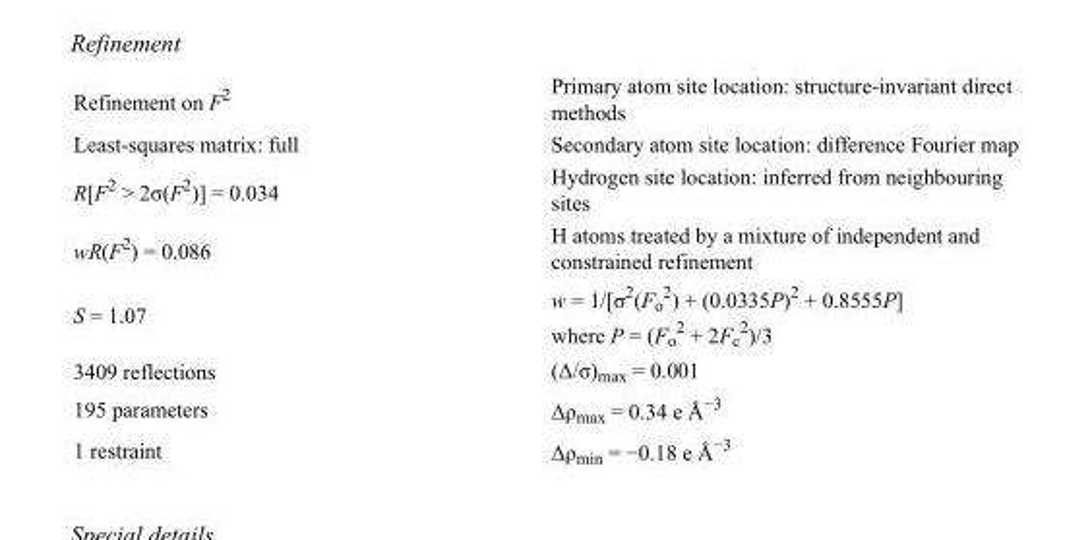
<table><tbody><tr><td>Refinement on F<sup>2</sup></td><td>Primary atom site location: structure-invariant direct methods</td></tr><tr><td>Least-squares matrix: full</td><td>Secondary atom site location: difference Fourier map</td></tr><tr><td>R[F<sup>2</sup> &gt; 2σ(F<sup>2</sup>)] = 0.034</td><td>Hydrogen site location: inferred from neighbouring sites</td></tr><tr><td>wR(F<sup>2</sup>) = 0.086</td><td>H atoms treated by a mixture of independent and constrained refinement</td></tr><tr><td>S = 1.07</td><td>w = 1/[σ<sup>2</sup>(F<sub>o</sub> <sup>2</sup>) + (0.0335P)<sup>2</sup> + 0.8555P] where P = (F<sub>o</sub> <sup>2</sup> + 2F<sub>c</sub> <sup>2</sup>)/3</td></tr><tr><td>3409 reflections</td><td>(Δ/σ)<sub>max</sub> = 0.001</td></tr><tr><td>195 parameters</td><td>Δρ<sub>max</sub> = 0.34 e Å<sup>−3</sup></td></tr><tr><td>1 restraint</td><td>Δρ<sub>min</sub> = −0.18 e Å<sup>−3</sup></td></tr></tbody></table>